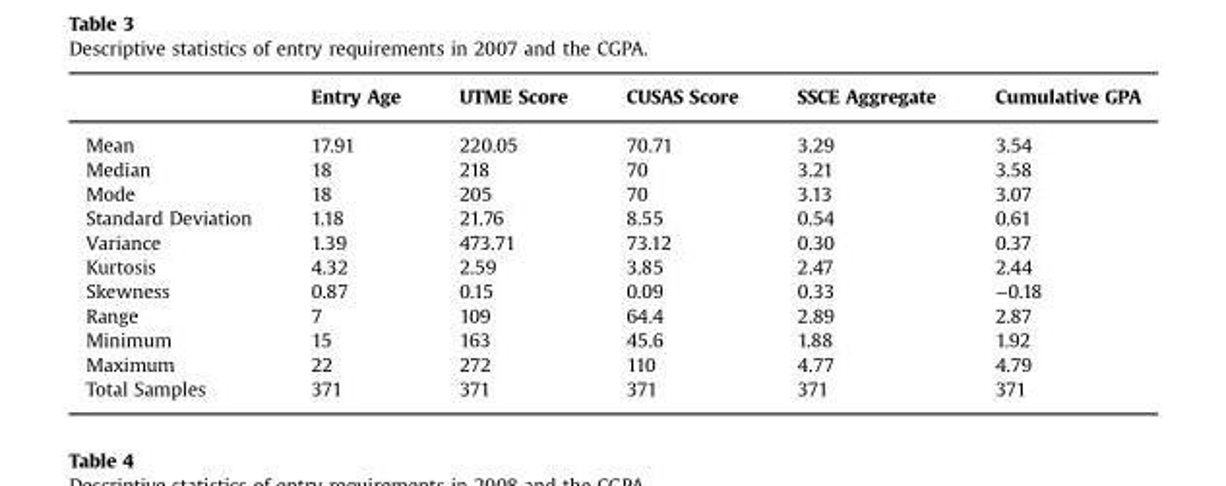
<table><thead><tr><td></td><td>Entry Age</td><td>UTME Score</td><td>CUSAS Score</td><td>SSCE Aggregate</td><td>Cumulative GPA</td></tr></thead><tbody><tr><td>Mean</td><td>17.91</td><td>220.05</td><td>70.71</td><td>3.29</td><td>3.54</td></tr><tr><td>Median</td><td>18</td><td>218</td><td>70</td><td>3.21</td><td>3.58</td></tr><tr><td>Mode</td><td>18</td><td>205</td><td>70</td><td>3.13</td><td>3.07</td></tr><tr><td>Standard Deviation</td><td>1.18</td><td>21.76</td><td>8.55</td><td>0.54</td><td>0.61</td></tr><tr><td>Variance</td><td>1.39</td><td>473.71</td><td>73.12</td><td>0.30</td><td>0.37</td></tr><tr><td>Kurtosis</td><td>4.32</td><td>2.59</td><td>3.85</td><td>2.47</td><td>2.44</td></tr><tr><td>Skewness</td><td>0.87</td><td>0.15</td><td>0.09</td><td>0.33</td><td>−0.18</td></tr><tr><td>Range</td><td>7</td><td>109</td><td>64.4</td><td>2.89</td><td>2.87</td></tr><tr><td>Minimum</td><td>15</td><td>163</td><td>45.6</td><td>1.88</td><td>1.92</td></tr><tr><td>Maximum</td><td>22</td><td>272</td><td>110</td><td>4.77</td><td>4.79</td></tr><tr><td>Total Samples</td><td>371</td><td>371</td><td>371</td><td>371</td><td>371</td></tr></tbody></table>